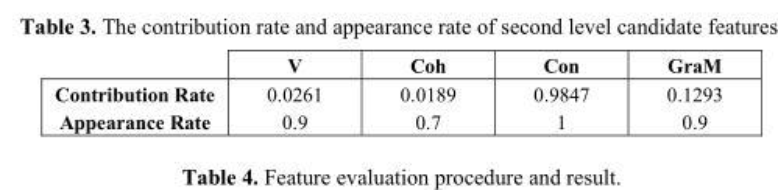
<table><thead><tr><td></td><td>V</td><td>Coh</td><td>Con</td><td>GraM</td></tr></thead><tbody><tr><td>Contribution Rate</td><td>0.0261</td><td>0.0189</td><td>0.9847</td><td>0.1293</td></tr><tr><td>Appearance Rate</td><td>0.9</td><td>0.7</td><td>1</td><td>0.9</td></tr></tbody></table>